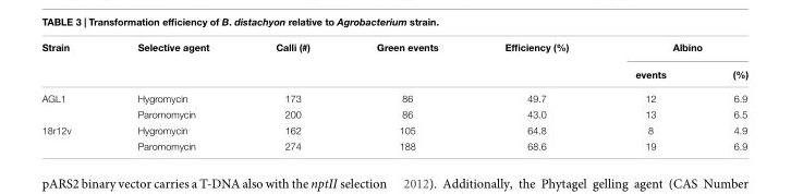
<table><thead><tr><td rowspan="2">Strain</td><td rowspan="2">Selective agent</td><td rowspan="2">Calli (#)</td><td rowspan="2">Green events</td><td rowspan="2">Efficiency (%)</td><td colspan="2">Albino</td></tr><tr><td>events</td><td>(%)</td></tr></thead><tbody><tr><td rowspan="2">AGL1</td><td>Hygromycin</td><td>173</td><td>86</td><td>49.7</td><td>12</td><td>6.9</td></tr><tr><td>Paromomycin</td><td>200</td><td>86</td><td>43.0</td><td>13</td><td>6.5</td></tr><tr><td rowspan="2">18r12v</td><td>Hygromycin</td><td>162</td><td>105</td><td>64.8</td><td>8</td><td>4.9</td></tr><tr><td>Paromomycin</td><td>274</td><td>188</td><td>68.6</td><td>19</td><td>6.9</td></tr></tbody></table>